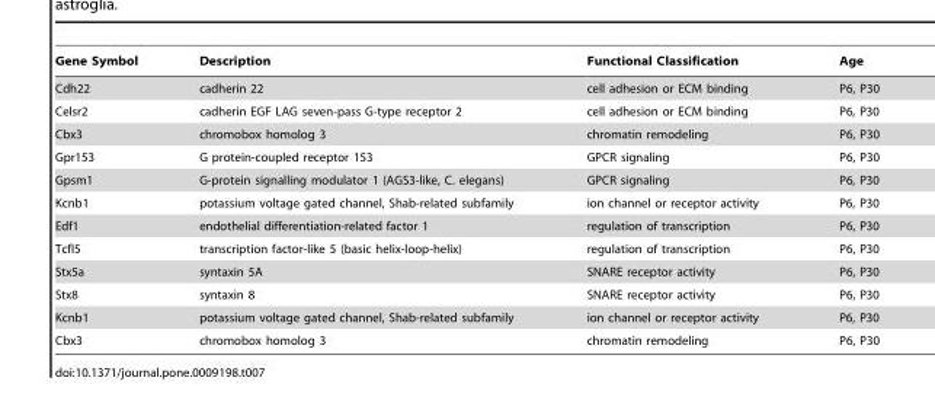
<table><thead><tr><td>Gene Symbol</td><td>Description</td><td>Functional Classification</td><td>Age</td></tr></thead><tbody><tr><td>Cdh22</td><td>cadherin 22</td><td>cell adhesion or ECM binding</td><td>P6, P30</td></tr><tr><td>Celsr2</td><td>cadherin EGF LAG seven-pass G-type receptor 2</td><td>cell adhesion or ECM binding</td><td>P6, P30</td></tr><tr><td>Cbx3</td><td>chromobox homolog 3</td><td>chromatin remodeling</td><td>P6, P30</td></tr><tr><td>Gpr153</td><td>G protein-coupled receptor 153</td><td>GPCR signaling</td><td>P6, P30</td></tr><tr><td>Gpsm1</td><td>G-protein signalling modulator 1 (AGS3-like, C. elegans)</td><td>GPCR signaling</td><td>P6, P30</td></tr><tr><td>Kcnb1</td><td>potassium voltage gated channel, Shab-related subfamily</td><td>ion channel or receptor activity</td><td>P6, P30</td></tr><tr><td>Edf1</td><td>endothelial differentiation-related factor 1</td><td>regulation of transcription</td><td>P6, P30</td></tr><tr><td>Tcfl5</td><td>transcription factor-like 5 (basic helix-loop-helix)</td><td>regulation of transcription</td><td>P6, P30</td></tr><tr><td>Stx5a</td><td>syntaxin 5A</td><td>SNARE receptor activity</td><td>P6, P30</td></tr><tr><td>Stx8</td><td>syntaxin 8</td><td>SNARE receptor activity</td><td>P6, P30</td></tr><tr><td>Kcnb1</td><td>potassium voltage gated channel, Shab-related subfamily</td><td>ion channel or receptor activity</td><td>P6, P30</td></tr><tr><td>Cbx3</td><td>chromobox homolog 3</td><td>chromatin remodeling</td><td>P6, P30</td></tr></tbody></table>